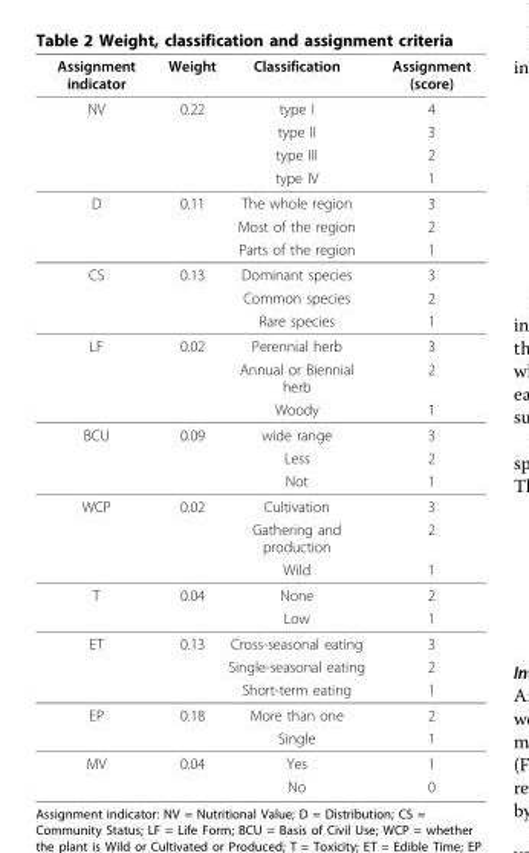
<table><thead><tr><td>Assignment indicator</td><td>Weight</td><td>Classification</td><td>Assignment (score)</td></tr></thead><tbody><tr><td rowspan="4">NV</td><td>0.22</td><td>type I</td><td>4</td></tr><tr><td></td><td>type II</td><td>3</td></tr><tr><td></td><td>type III</td><td>2</td></tr><tr><td></td><td>type IV</td><td>1</td></tr><tr><td rowspan="3">D</td><td>0.11</td><td>The whole region</td><td>3</td></tr><tr><td></td><td>Most of the region</td><td>2</td></tr><tr><td></td><td>Parts of the region</td><td>1</td></tr><tr><td rowspan="3">CS</td><td>0.13</td><td>Dominant species</td><td>3</td></tr><tr><td></td><td>Common species</td><td>2</td></tr><tr><td></td><td>Rare species</td><td>1</td></tr><tr><td rowspan="3">LF</td><td>0.02</td><td>Perennial herb</td><td>3</td></tr><tr><td></td><td>Annual or Biennial herb</td><td>2</td></tr><tr><td></td><td>Woody</td><td>1</td></tr><tr><td rowspan="3">BCU</td><td>0.09</td><td>wide range</td><td>3</td></tr><tr><td></td><td>Less</td><td>2</td></tr><tr><td></td><td>Not</td><td>1</td></tr><tr><td rowspan="3">WCP</td><td>0.02</td><td>Cultivation</td><td>3</td></tr><tr><td></td><td>Gathering and production</td><td>2</td></tr><tr><td></td><td>Wild</td><td>1</td></tr><tr><td rowspan="2">T</td><td>0.04</td><td>None</td><td>2</td></tr><tr><td></td><td>Low</td><td>1</td></tr><tr><td rowspan="3">ET</td><td>0.13</td><td>Cross-seasonal eating</td><td>3</td></tr><tr><td></td><td>Single-seasonal eating</td><td>2</td></tr><tr><td></td><td>Short-term eating</td><td>1</td></tr><tr><td rowspan="2">EP</td><td>0.18</td><td>More than one</td><td>2</td></tr><tr><td></td><td>Single</td><td>1</td></tr><tr><td rowspan="2">MV</td><td>0.04</td><td>Yes</td><td>1</td></tr><tr><td></td><td>No</td><td>0</td></tr></tbody></table>